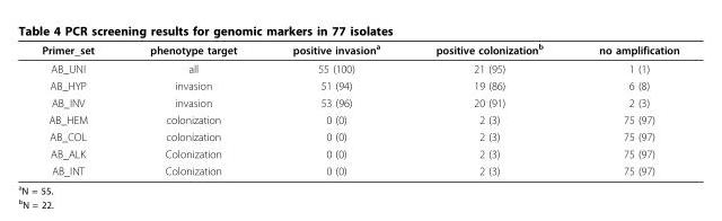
<table><thead><tr><td>Primer_set</td><td>phenotype target</td><td>positive invasion<sup>a</sup></td><td>positive colonization<sup>b</sup></td><td>no amplification</td></tr></thead><tbody><tr><td>AB_UNI</td><td>all</td><td>55 (100)</td><td>21 (95)</td><td>1 (1)</td></tr><tr><td>AB_HYP</td><td>invasion</td><td>51 (94)</td><td>19 (86)</td><td>6 (8)</td></tr><tr><td>AB_INV</td><td>invasion</td><td>53 (96)</td><td>20 (91)</td><td>2 (3)</td></tr><tr><td>AB_HEM</td><td>colonization</td><td>0 (0)</td><td>2 (3)</td><td>75 (97)</td></tr><tr><td>AB_COL</td><td>colonization</td><td>0 (0)</td><td>2 (3)</td><td>75 (97)</td></tr><tr><td>AB_ALK</td><td>Colonization</td><td>0 (0)</td><td>2 (3)</td><td>75 (97)</td></tr><tr><td>AB_INT</td><td>Colonization</td><td>0 (0)</td><td>2 (3)</td><td>75 (97)</td></tr></tbody></table>